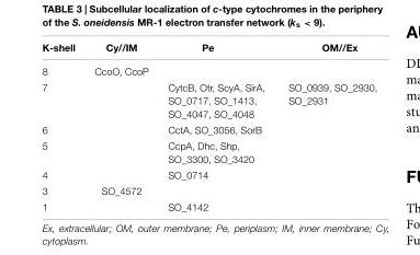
<table><thead><tr><td>K-shell</td><td>Cy//IM</td><td>Pe</td><td>OM//Ex</td></tr></thead><tbody><tr><td>8</td><td>CcoO, CcoP</td><td></td><td></td></tr><tr><td>7</td><td></td><td>CytcB, Otr, ScyA, SirA, SO_0717, SO_1413, SO_4047, SO_4048</td><td>SO_0939, SO_2930, SO_2931</td></tr><tr><td>6</td><td></td><td>CctA, SO_3056, SorB</td><td></td></tr><tr><td>5</td><td></td><td>CcpA, Dhc, Shp, SO_3300, SO_3420</td><td></td></tr><tr><td>4</td><td></td><td>SO_0714</td><td></td></tr><tr><td>3</td><td>SO_4572</td><td></td><td></td></tr><tr><td>1</td><td></td><td>SO_4142</td><td></td></tr></tbody></table>